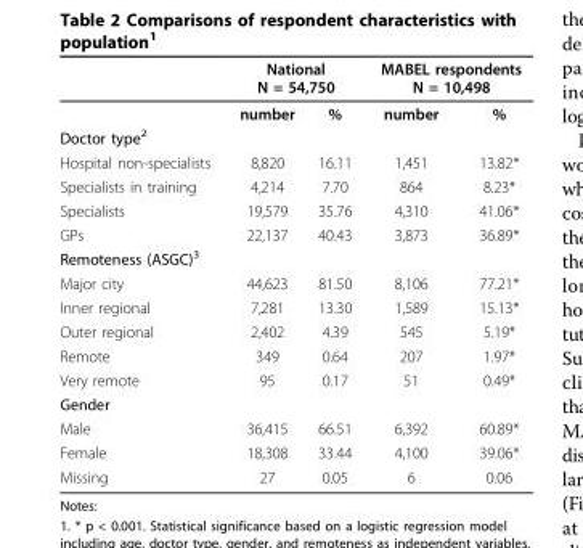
<table><thead><tr><td rowspan="2"></td><td colspan="2">National N = 54,750</td><td colspan="2">MABEL respondents N = 10,498</td></tr><tr><td>number</td><td>%</td><td>number</td><td>%</td></tr></thead><tbody><tr><td colspan="5">Doctor type<sup>2</sup></td></tr><tr><td>Hospital non-specialists</td><td>8,820</td><td>16.11</td><td>1,451</td><td>13.82*</td></tr><tr><td>Specialists in training</td><td>4,214</td><td>7.70</td><td>864</td><td>8.23*</td></tr><tr><td>Specialists</td><td>19,579</td><td>35.76</td><td>4,310</td><td>41.06*</td></tr><tr><td>GPs</td><td>22,137</td><td>40.43</td><td>3,873</td><td>36.89*</td></tr><tr><td colspan="5">Remoteness (ASGC)<sup>3</sup></td></tr><tr><td>Major city</td><td>44,623</td><td>81.50</td><td>8,106</td><td>77.21*</td></tr><tr><td>Inner regional</td><td>7,281</td><td>13.30</td><td>1,589</td><td>15.13*</td></tr><tr><td>Outer regional</td><td>2,402</td><td>4.39</td><td>545</td><td>5.19*</td></tr><tr><td>Remote</td><td>349</td><td>0.64</td><td>207</td><td>1.97*</td></tr><tr><td>Very remote</td><td>95</td><td>0.17</td><td>51</td><td>0.49*</td></tr><tr><td colspan="5">Gender</td></tr><tr><td>Male</td><td>36,415</td><td>66.51</td><td>6,392</td><td>60.89*</td></tr><tr><td>Female</td><td>18,308</td><td>33.44</td><td>4,100</td><td>39.06*</td></tr><tr><td>Missing</td><td>27</td><td>0.05</td><td>6</td><td>0.06</td></tr></tbody></table>